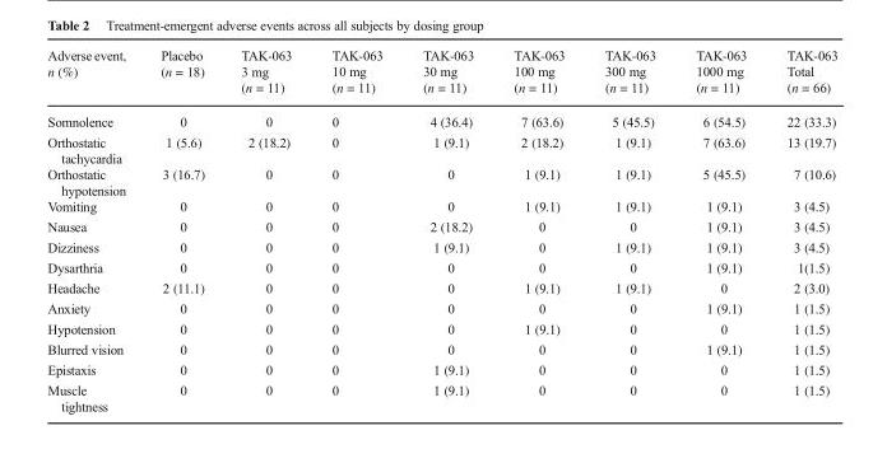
<table><thead><tr><td>Adverse event, n (%)</td><td>Placebo (n = 18)</td><td>TAK-063 3 mg (n = 11)</td><td>TAK-063 10 mg (n = 11)</td><td>TAK-063 30 mg (n = 11)</td><td>TAK-063 100 mg (n = 11)</td><td>TAK-063 300 mg (n = 11)</td><td>TAK-063 1000 mg (n = 11)</td><td>TAK-063 Total (n = 66)</td></tr></thead><tbody><tr><td>Somnolence</td><td>0</td><td>0</td><td>0</td><td>4 (36.4)</td><td>7 (63.6)</td><td>5 (45.5)</td><td>6 (54.5)</td><td>22 (33.3)</td></tr><tr><td>Orthostatic tachycardia</td><td>1 (5.6)</td><td>2 (18.2)</td><td>0</td><td>1 (9.1)</td><td>2 (18.2)</td><td>1 (9.1)</td><td>7 (63.6)</td><td>13 (19.7)</td></tr><tr><td>Orthostatic hypotension</td><td>3 (16.7)</td><td>0</td><td>0</td><td>0</td><td>1 (9.1)</td><td>1 (9.1)</td><td>5 (45.5)</td><td>7 (10.6)</td></tr><tr><td>Vomiting</td><td>0</td><td>0</td><td>0</td><td>0</td><td>1 (9.1)</td><td>1 (9.1)</td><td>1 (9.1)</td><td>3 (4.5)</td></tr><tr><td>Nausea</td><td>0</td><td>0</td><td>0</td><td>2 (18.2)</td><td>0</td><td>0</td><td>1 (9.1)</td><td>3 (4.5)</td></tr><tr><td>Dizziness</td><td>0</td><td>0</td><td>0</td><td>1 (9.1)</td><td>0</td><td>1 (9.1)</td><td>1 (9.1)</td><td>3 (4.5)</td></tr><tr><td>Dysarthria</td><td>0</td><td>0</td><td>0</td><td>0</td><td>0</td><td>0</td><td>1 (9.1)</td><td>1(1.5)</td></tr><tr><td>Headache</td><td>2 (11.1)</td><td>0</td><td>0</td><td>0</td><td>1 (9.1)</td><td>1 (9.1)</td><td>0</td><td>2 (3.0)</td></tr><tr><td>Anxiety</td><td>0</td><td>0</td><td>0</td><td>0</td><td>0</td><td>0</td><td>1 (9.1)</td><td>1 (1.5)</td></tr><tr><td>Hypotension</td><td>0</td><td>0</td><td>0</td><td>0</td><td>1 (9.1)</td><td>0</td><td>0</td><td>1 (1.5)</td></tr><tr><td>Blurred vision</td><td>0</td><td>0</td><td>0</td><td>0</td><td>0</td><td>0</td><td>1 (9.1)</td><td>1 (1.5)</td></tr><tr><td>Epistaxis</td><td>0</td><td>0</td><td>0</td><td>1 (9.1)</td><td>0</td><td>0</td><td>0</td><td>1 (1.5)</td></tr><tr><td>Muscle tightness</td><td>0</td><td>0</td><td>0</td><td>1 (9.1)</td><td>0</td><td>0</td><td>0</td><td>1 (1.5)</td></tr></tbody></table>